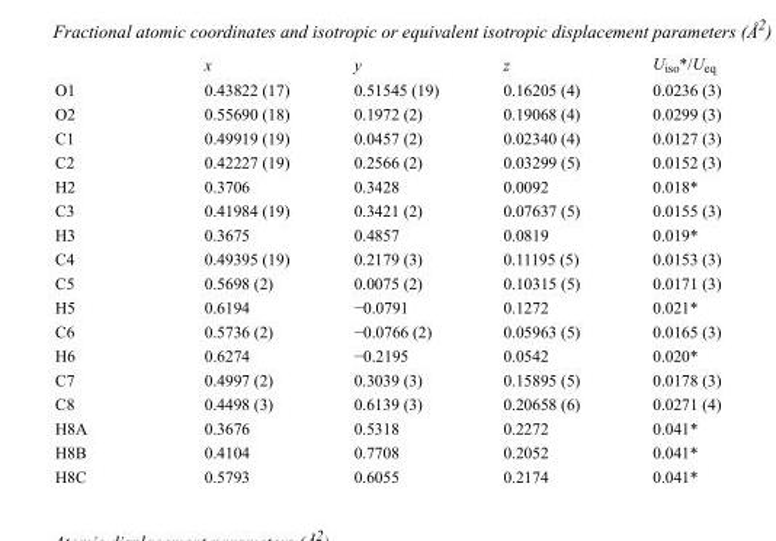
<table><thead><tr><td></td><td>x</td><td>y</td><td>z</td><td>U<sub>iso</sub>*/U<sub>eq</sub></td></tr></thead><tbody><tr><td>O1</td><td>0.43822 (17)</td><td>0.51545 (19)</td><td>0.16205 (4)</td><td>0.0236 (3)</td></tr><tr><td>O2</td><td>0.55690 (18)</td><td>0.1972 (2)</td><td>0.19068 (4)</td><td>0.0299 (3)</td></tr><tr><td>C1</td><td>0.49919 (19)</td><td>0.0457 (2)</td><td>0.02340 (4)</td><td>0.0127 (3)</td></tr><tr><td>C2</td><td>0.42227 (19)</td><td>0.2566 (2)</td><td>0.03299 (5)</td><td>0.0152 (3)</td></tr><tr><td>H2</td><td>0.3706</td><td>0.3428</td><td>0.0092</td><td>0.018*</td></tr><tr><td>C3</td><td>0.41984 (19)</td><td>0.3421 (2)</td><td>0.07637 (5)</td><td>0.0155 (3)</td></tr><tr><td>H3</td><td>0.3675</td><td>0.4857</td><td>0.0819</td><td>0.019*</td></tr><tr><td>C4</td><td>0.49395 (19)</td><td>0.2179 (3)</td><td>0.11195 (5)</td><td>0.0153 (3)</td></tr><tr><td>C5</td><td>0.5698 (2)</td><td>0.0075 (2)</td><td>0.10315 (5)</td><td>0.0171 (3)</td></tr><tr><td>H5</td><td>0.6194</td><td>−0.0791</td><td>0.1272</td><td>0.021*</td></tr><tr><td>C6</td><td>0.5736 (2)</td><td>−0.0766 (2)</td><td>0.05963 (5)</td><td>0.0165 (3)</td></tr><tr><td>H6</td><td>0.6274</td><td>−0.2195</td><td>0.0542</td><td>0.020*</td></tr><tr><td>C7</td><td>0.4997 (2)</td><td>0.3039 (3)</td><td>0.15895 (5)</td><td>0.0178 (3)</td></tr><tr><td>C8</td><td>0.4498 (3)</td><td>0.6139 (3)</td><td>0.20658 (6)</td><td>0.0271 (4)</td></tr><tr><td>H8A</td><td>0.3676</td><td>0.5318</td><td>0.2272</td><td>0.041*</td></tr><tr><td>H8B</td><td>0.4104</td><td>0.7708</td><td>0.2052</td><td>0.041*</td></tr><tr><td>H8C</td><td>0.5793</td><td>0.6055</td><td>0.2174</td><td>0.041*</td></tr></tbody></table>